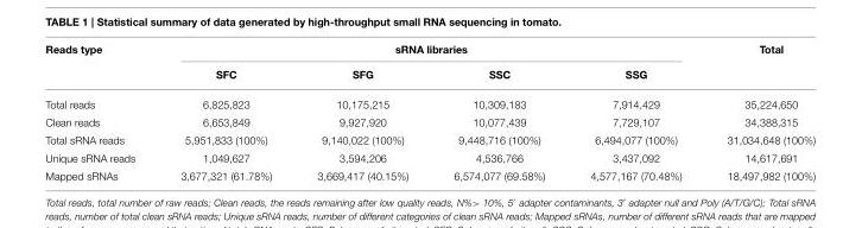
<table><thead><tr><td rowspan="2">Reads type</td><td colspan="4">sRNA libraries</td><td rowspan="2">Total</td></tr><tr><td>SFC</td><td>SFG</td><td>SSC</td><td>SSG</td></tr></thead><tbody><tr><td>Total reads</td><td>6,825,823</td><td>10,175,215</td><td>10,309,183</td><td>7,914,429</td><td>35,224,650</td></tr><tr><td>Clean reads</td><td>6,653,849</td><td>9,927,920</td><td>10,077,439</td><td>7,729,107</td><td>34,388,315</td></tr><tr><td>Total sRNA reads</td><td>5,951,833 (100%)</td><td>9,140,022 (100%)</td><td>9,448,716 (100%)</td><td>6,494,077 (100%)</td><td>31,034,648 (100%)</td></tr><tr><td>Unique sRNA reads</td><td>1,049,627</td><td>3,594,206</td><td>4,536,766</td><td>3,437,092</td><td>14,617,691</td></tr><tr><td>Mapped sRNAs</td><td>3,677,321 (61.78%)</td><td>3,669,417 (40.15%)</td><td>6,574,077 (69.58%)</td><td>4,577,167 (70.48%)</td><td>18,497,982 (100%)</td></tr></tbody></table>